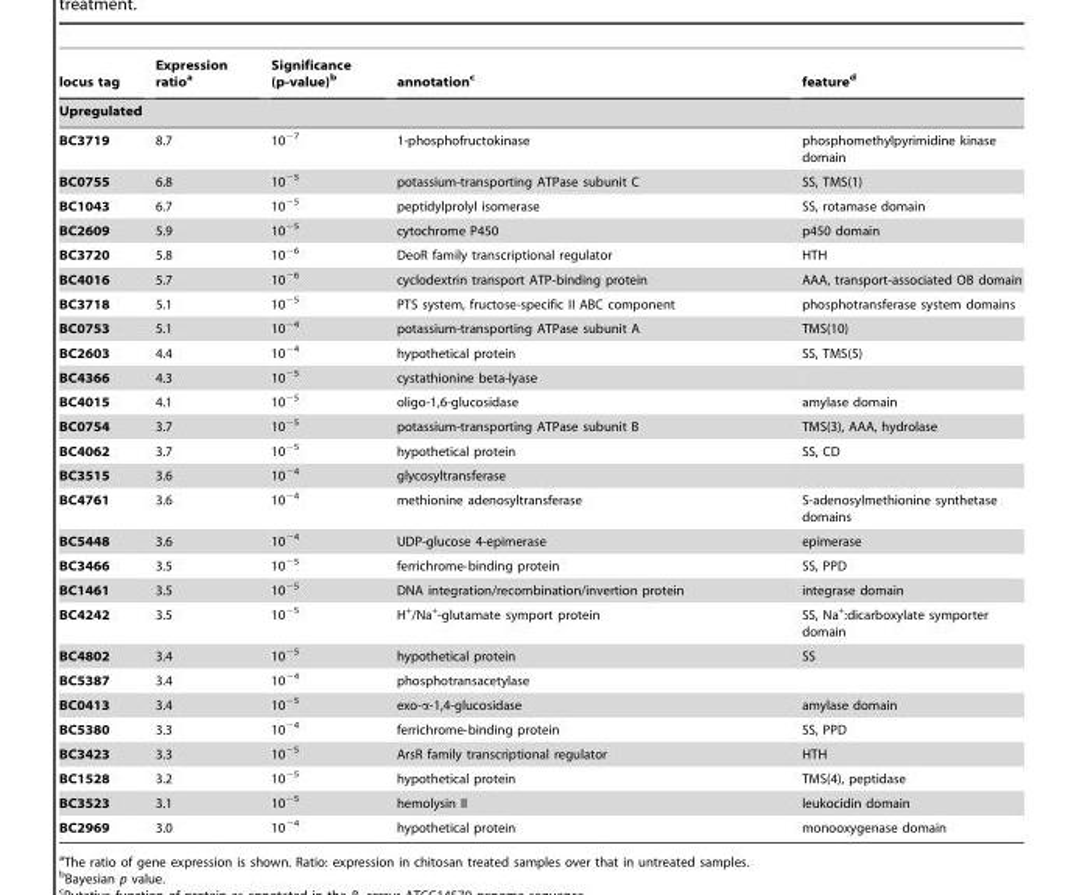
<table><thead><tr><td>locus tag</td><td>Expression ratio<sup>a</sup></td><td>Significance (p-value)<sup>b</sup></td><td>annotation<sup>c</sup></td><td>feature<sup>d</sup></td></tr><tr><td colspan="5">Upregulated</td></tr></thead><tbody><tr><td>BC3719</td><td>8.7</td><td>10<sup>−7</sup></td><td>1-phosphofructokinase</td><td>phosphomethylpyrimidine kinase domain</td></tr><tr><td>BC0755</td><td>6.8</td><td>10<sup>−5</sup></td><td>potassium-transporting ATPase subunit C</td><td>SS, TMS(1)</td></tr><tr><td>BC1043</td><td>6.7</td><td>10<sup>−5</sup></td><td>peptidylprolyl isomerase</td><td>SS, rotamase domain</td></tr><tr><td>BC2609</td><td>5.9</td><td>10<sup>−5</sup></td><td>cytochrome P450</td><td>p450 domain</td></tr><tr><td>BC3720</td><td>5.8</td><td>10<sup>−6</sup></td><td>DeoR family transcriptional regulator</td><td>HTH</td></tr><tr><td>BC4016</td><td>5.7</td><td>10<sup>−6</sup></td><td>cyclodextrin transport ATP-binding protein</td><td>AAA, transport-associated OB domain</td></tr><tr><td>BC3718</td><td>5.1</td><td>10<sup>−5</sup></td><td>PTS system, fructose-specific II ABC component</td><td>phosphotransferase system domains</td></tr><tr><td>BC0753</td><td>5.1</td><td>10<sup>−4</sup></td><td>potassium-transporting ATPase subunit A</td><td>TMS(10)</td></tr><tr><td>BC2603</td><td>4.4</td><td>10<sup>−4</sup></td><td>hypothetical protein</td><td>SS, TMS(5)</td></tr><tr><td>BC4366</td><td>4.3</td><td>10<sup>−5</sup></td><td>cystathionine beta-lyase</td><td></td></tr><tr><td>BC4015</td><td>4.1</td><td>10<sup>−5</sup></td><td>oligo-1,6-glucosidase</td><td>amylase domain</td></tr><tr><td>BC0754</td><td>3.7</td><td>10<sup>−5</sup></td><td>potassium-transporting ATPase subunit B</td><td>TMS(3), AAA, hydrolase</td></tr><tr><td>BC4062</td><td>3.7</td><td>10<sup>−5</sup></td><td>hypothetical protein</td><td>SS, CD</td></tr><tr><td>BC3515</td><td>3.6</td><td>10<sup>−4</sup></td><td>glycosyltransferase</td><td></td></tr><tr><td>BC4761</td><td>3.6</td><td>10<sup>−4</sup></td><td>methionine adenosyltransferase</td><td>S-adenosylmethionine synthetase domains</td></tr><tr><td>BC5448</td><td>3.6</td><td>10<sup>−4</sup></td><td>UDP-glucose 4-epimerase</td><td>epimerase</td></tr><tr><td>BC3466</td><td>3.5</td><td>10<sup>−5</sup></td><td>ferrichrome-binding protein</td><td>SS, PPD</td></tr><tr><td>BC1461</td><td>3.5</td><td>10<sup>−5</sup></td><td>DNA integration/recombination/invertion protein</td><td>integrase domain</td></tr><tr><td>BC4242</td><td>3.5</td><td>10<sup>−5</sup></td><td>H<sup>+</sup>/Na<sup>+</sup>-glutamate symport protein</td><td>SS, Na<sup>+</sup>:dicarboxylate symporter domain</td></tr><tr><td>BC4802</td><td>3.4</td><td>10<sup>−5</sup></td><td>hypothetical protein</td><td>SS</td></tr><tr><td>BC5387</td><td>3.4</td><td>10<sup>−4</sup></td><td>phosphotransacetylase</td><td></td></tr><tr><td>BC0413</td><td>3.4</td><td>10<sup>−5</sup></td><td>exo-α-1,4-glucosidase</td><td>amylase domain</td></tr><tr><td>BC5380</td><td>3.3</td><td>10<sup>−4</sup></td><td>ferrichrome-binding protein</td><td>SS, PPD</td></tr><tr><td>BC3423</td><td>3.3</td><td>10<sup>−5</sup></td><td>ArsR family transcriptional regulator</td><td>HTH</td></tr><tr><td>BC1528</td><td>3.2</td><td>10<sup>−5</sup></td><td>hypothetical protein</td><td>TMS(4), peptidase</td></tr><tr><td>BC3523</td><td>3.1</td><td>10<sup>−5</sup></td><td>hemolysin II</td><td>leukocidin domain</td></tr><tr><td>BC2969</td><td>3.0</td><td>10<sup>−4</sup></td><td>hypothetical protein</td><td>monooxygenase domain</td></tr></tbody></table>